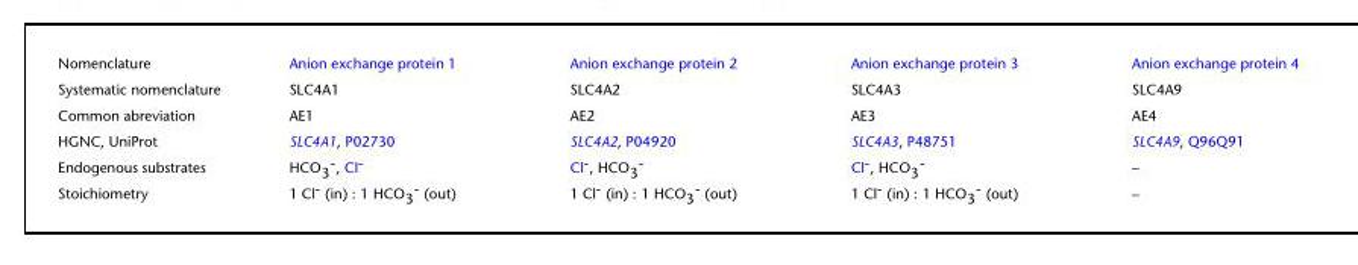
<table><tbody><tr><td>Nomenclature</td><td>Anion exchange protein 1</td><td>Anion exchange protein 2</td><td>Anion exchange protein 3</td><td>Anion exchange protein 4</td></tr><tr><td>Systematic nomenclature</td><td>SLC4A1</td><td>SLC4A2</td><td>SLC4A3</td><td>SLC4A9</td></tr><tr><td>Common abreviation</td><td>AE1</td><td>AE2</td><td>AE3</td><td>AE4</td></tr><tr><td>HGNC, UniProt</td><td>SLC4A1, P02730</td><td>SLC4A2, P04920</td><td>SLC4A3, P48751</td><td>SLC4A9, Q96Q91</td></tr><tr><td>Endogenous substrates</td><td>HCO<sub>3</sub><sup>-</sup>, Cl<sup>-</sup></td><td>Cl<sup>-</sup>, HCO<sub>3</sub><sup>-</sup></td><td>Cl<sup>-</sup>, HCO<sub>3</sub><sup>-</sup></td><td>–</td></tr><tr><td>Stoichiometry</td><td>1 Cl<sup>-</sup> (in) : 1 HCO<sub>3</sub><sup>-</sup> (out)</td><td>1 Cl<sup>-</sup> (in) : 1 HCO<sub>3</sub><sup>-</sup> (out)</td><td>1 Cl<sup>-</sup> (in) : 1 HCO<sub>3</sub><sup>-</sup> (out)</td><td>–</td></tr></tbody></table>